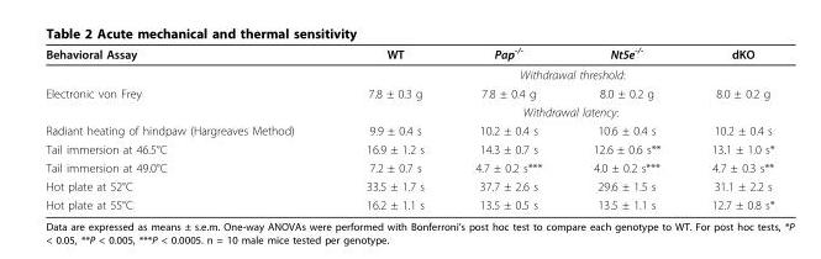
<table><thead><tr><td>Behavioral Assay</td><td>WT</td><td>Pap<sup>-/-</sup></td><td>Nt5e<sup>-/-</sup></td><td>dKO</td></tr></thead><tbody><tr><td></td><td colspan="4">Withdrawal threshold:</td></tr><tr><td rowspan="2">Electronic von Frey</td><td>7.8 ± 0.3 g</td><td>7.8 ± 0.4 g</td><td>8.0 ± 0.2 g</td><td>8.0 ± 0.2 g</td></tr><tr><td colspan="4">Withdrawal latency:</td></tr><tr><td>Radiant heating of hindpaw (Hargreaves Method)</td><td>9.9 ± 0.4 s</td><td>10.2 ± 0.4 s</td><td>10.6 ± 0.4 s</td><td>10.2 ± 0.4 s</td></tr><tr><td>Tail immersion at 46.5°C</td><td>16.9 ± 1.2 s</td><td>14.3 ± 0.7 s</td><td>12.6 ± 0.6 s**</td><td>13.1 ± 1.0 s*</td></tr><tr><td>Tail immersion at 49.0°C</td><td>7.2 ± 0.7 s</td><td>4.7 ± 0.2 s***</td><td>4.0 ± 0.2 s***</td><td>4.7 ± 0.3 s**</td></tr><tr><td>Hot plate at 52°C</td><td>33.5 ± 1.7 s</td><td>37.7 ± 2.6 s</td><td>29.6 ± 1.5 s</td><td>31.1 ± 2.2 s</td></tr><tr><td>Hot plate at 55°C</td><td>16.2 ± 1.1 s</td><td>13.5 ± 0.5 s</td><td>13.5 ± 1.1 s</td><td>12.7 ± 0.8 s*</td></tr></tbody></table>